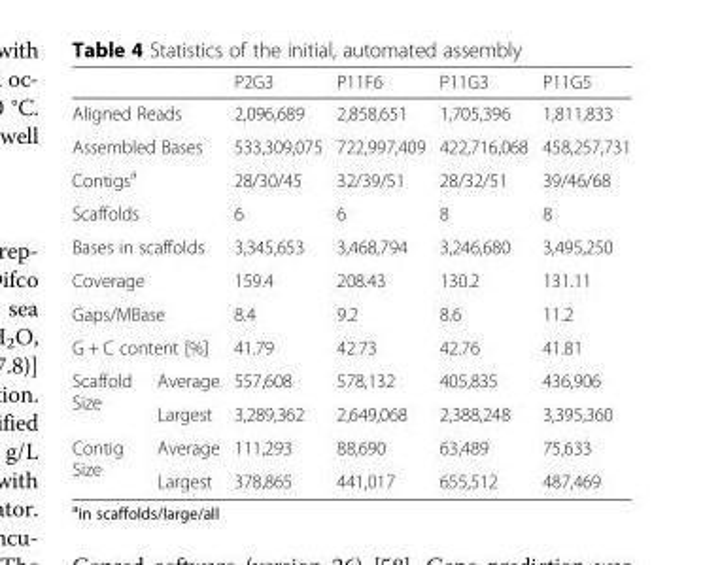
<table><thead><tr><td></td><td></td><td>P2G3</td><td>P11F6</td><td>P11G3</td><td>P11G5</td></tr></thead><tbody><tr><td colspan="2">Aligned Reads</td><td>2,096,689</td><td>2,858,651</td><td>1,705,396</td><td>1,811,833</td></tr><tr><td colspan="2">Assembled Bases</td><td>533,309,075</td><td>722,997,409</td><td>422,716,068</td><td>458,257,731</td></tr><tr><td colspan="2">Contigs<sup>a</sup></td><td>28/30/45</td><td>32/39/51</td><td>28/32/51</td><td>39/46/68</td></tr><tr><td colspan="2">Scaffolds</td><td>6</td><td>6</td><td>8</td><td>8</td></tr><tr><td colspan="2">Bases in scaffolds</td><td>3,345,653</td><td>3,468,794</td><td>3,246,680</td><td>3,495,250</td></tr><tr><td colspan="2">Coverage</td><td>159.4</td><td>208.43</td><td>130.2</td><td>131.11</td></tr><tr><td colspan="2">Gaps/MBase</td><td>8.4</td><td>9.2</td><td>8.6</td><td>11.2</td></tr><tr><td colspan="2">G + C content [%]</td><td>41.79</td><td>42.73</td><td>42.76</td><td>41.81</td></tr><tr><td rowspan="2">Scaffold Size</td><td>Average</td><td>557,608</td><td>578,132</td><td>405,835</td><td>436,906</td></tr><tr><td>Largest</td><td>3,289,362</td><td>2,649,068</td><td>2,388,248</td><td>3,395,360</td></tr><tr><td rowspan="2">Contig Size</td><td>Average</td><td>111,293</td><td>88,690</td><td>63,489</td><td>75,633</td></tr><tr><td>Largest</td><td>378,865</td><td>441,017</td><td>655,512</td><td>487,469</td></tr></tbody></table>